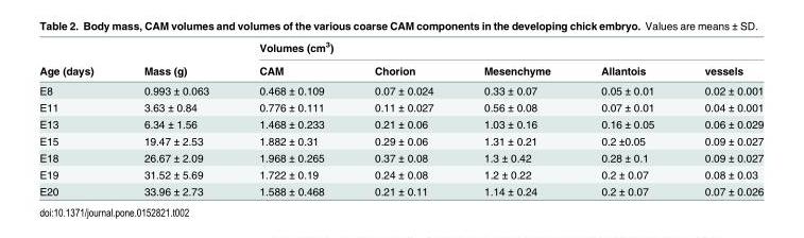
<table><thead><tr><td rowspan="2">Age (days)</td><td rowspan="2">Mass (g)</td><td colspan="5">Volumes (cm<sup>3</sup>)</td></tr><tr><td>CAM</td><td>Chorion</td><td>Mesenchyme</td><td>Allantois</td><td>vessels</td></tr></thead><tbody><tr><td>E8</td><td>0.993 ± 0.063</td><td>0.468 ± 0.109</td><td>0.07 ± 0.024</td><td>0.33 ± 0.07</td><td>0.05 ± 0.01</td><td>0.02 ± 0.001</td></tr><tr><td>E11</td><td>3.63 ± 0.84</td><td>0.776 ± 0.111</td><td>0.11 ± 0.027</td><td>0.56 ± 0.08</td><td>0.07 ± 0.01</td><td>0.04 ± 0.001</td></tr><tr><td>E13</td><td>6.34 ± 1.56</td><td>1.468 ± 0.233</td><td>0.21 ± 0.06</td><td>1.03 ± 0.16</td><td>0.16 ± 0.05</td><td>0.06 ± 0.029</td></tr><tr><td>E15</td><td>19.47 ± 2.53</td><td>1.882 ± 0.31</td><td>0.29 ± 0.06</td><td>1.31 ± 0.21</td><td>0.2 ±0.05</td><td>0.09 ± 0.027</td></tr><tr><td>E18</td><td>26.67 ± 2.09</td><td>1.968 ± 0.265</td><td>0.37 ± 0.08</td><td>1.3 ± 0.42</td><td>0.28 ± 0.1</td><td>0.09 ± 0.027</td></tr><tr><td>E19</td><td>31.52 ± 5.69</td><td>1.722 ± 0.19</td><td>0.24 ± 0.08</td><td>1.2 ± 0.22</td><td>0.2 ± 0.07</td><td>0.08 ± 0.03</td></tr><tr><td>E20</td><td>33.96 ± 2.73</td><td>1.588 ± 0.468</td><td>0.21 ± 0.11</td><td>1.14 ± 0.24</td><td>0.2 ± 0.07</td><td>0.07 ± 0.026</td></tr></tbody></table>